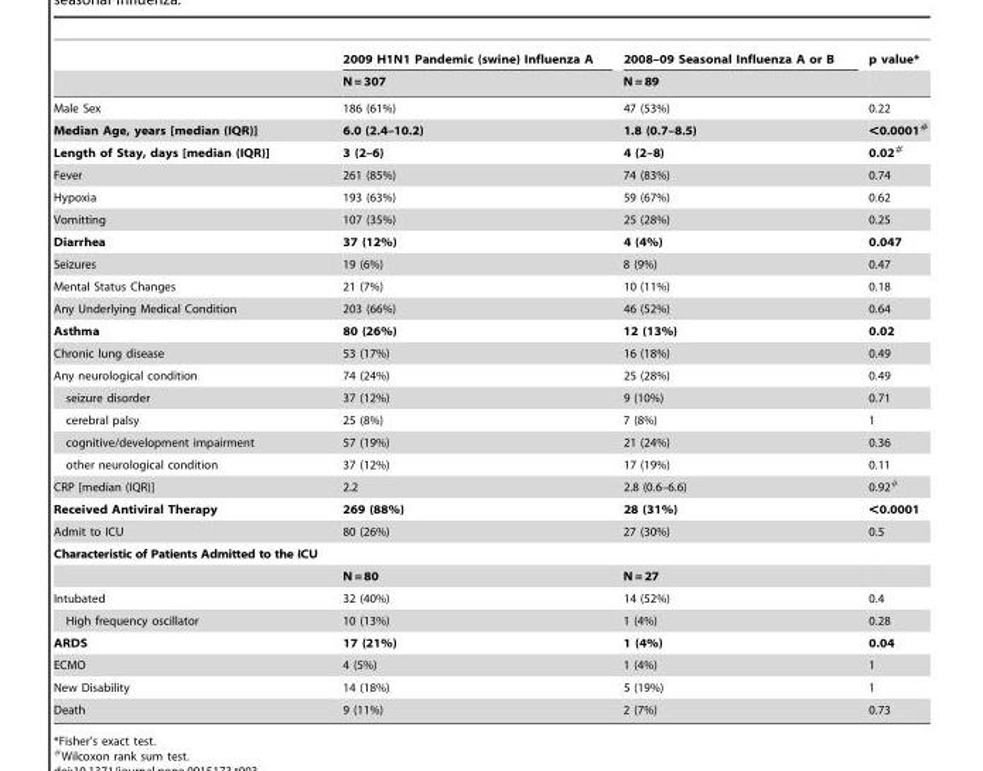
<table><thead><tr><td rowspan="2"></td><td rowspan="2">2009 H1N1 Pandemic (swine) Influenza A N = 307</td><td rowspan="2">2008–09 Seasonal Influenza A or B N = 89</td><td rowspan="2">p value*</td></tr><tr></tr></thead><tbody><tr><td>Male Sex</td><td>186 (61%)</td><td>47 (53%)</td><td>0.22</td></tr><tr><td>Median Age, years [median (IQR)]</td><td>6.0 (2.4–10.2)</td><td>1.8 (0.7–8.5)</td><td>&lt;0.0001#</td></tr><tr><td>Length of Stay, days [median (IQR)]</td><td>3 (2–6)</td><td>4 (2–8)</td><td>0.02#</td></tr><tr><td>Fever</td><td>261 (85%)</td><td>74 (83%)</td><td>0.74</td></tr><tr><td>Hypoxia</td><td>193 (63%)</td><td>59 (67%)</td><td>0.62</td></tr><tr><td>Vomitting</td><td>107 (35%)</td><td>25 (28%)</td><td>0.25</td></tr><tr><td>Diarrhea</td><td>37 (12%)</td><td>4 (4%)</td><td>0.047</td></tr><tr><td>Seizures</td><td>19 (6%)</td><td>8 (9%)</td><td>0.47</td></tr><tr><td>Mental Status Changes</td><td>21 (7%)</td><td>10 (11%)</td><td>0.18</td></tr><tr><td>Any Underlying Medical Condition</td><td>203 (66%)</td><td>46 (52%)</td><td>0.64</td></tr><tr><td>Asthma</td><td>80 (26%)</td><td>12 (13%)</td><td>0.02</td></tr><tr><td>Chronic lung disease</td><td>53 (17%)</td><td>16 (18%)</td><td>0.49</td></tr><tr><td>Any neurological condition</td><td>74 (24%)</td><td>25 (28%)</td><td>0.49</td></tr><tr><td>seizure disorder</td><td>37 (12%)</td><td>9 (10%)</td><td>0.71</td></tr><tr><td>cerebral palsy</td><td>25 (8%)</td><td>7 (8%)</td><td>1</td></tr><tr><td>cognitive/development impairment</td><td>57 (19%)</td><td>21 (24%)</td><td>0.36</td></tr><tr><td>other neurological condition</td><td>37 (12%)</td><td>17 (19%)</td><td>0.11</td></tr><tr><td>CRP [median (IQR)]</td><td>2.2</td><td>2.8 (0.6–6.6)</td><td>0.92#</td></tr><tr><td>Received Antiviral Therapy</td><td>269 (88%)</td><td>28 (31%)</td><td>&lt;0.0001</td></tr><tr><td>Admit to ICU</td><td>80 (26%)</td><td>27 (30%)</td><td>0.5</td></tr><tr><td colspan="4">Characteristic of Patients Admitted to the ICU</td></tr><tr><td></td><td>N = 80</td><td>N = 27</td><td></td></tr><tr><td>Intubated</td><td>32 (40%)</td><td>14 (52%)</td><td>0.4</td></tr><tr><td>High frequency oscillator</td><td>10 (13%)</td><td>1 (4%)</td><td>0.28</td></tr><tr><td>ARDS</td><td>17 (21%)</td><td>1 (4%)</td><td>0.04</td></tr><tr><td>ECMO</td><td>4 (5%)</td><td>1 (4%)</td><td>1</td></tr><tr><td>New Disability</td><td>14 (18%)</td><td>5 (19%)</td><td>1</td></tr><tr><td>Death</td><td>9 (11%)</td><td>2 (7%)</td><td>0.73</td></tr></tbody></table>